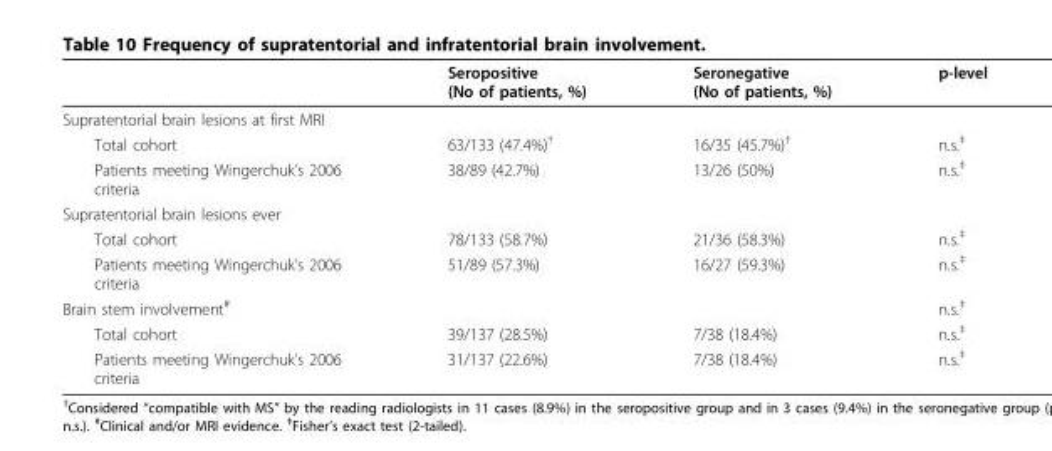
<table><thead><tr><td></td><td>Seropositive (No of patients, %)</td><td>Seronegative (No of patients, %)</td><td>p-level</td></tr></thead><tbody><tr><td colspan="4">Supratentorial brain lesions at first MRI</td></tr><tr><td>Total cohort</td><td>63/133 (47.4%)<sup>†</sup></td><td>16/35 (45.7%)<sup>†</sup></td><td>n.s.<sup>‡</sup></td></tr><tr><td>Patients meeting Wingerchuk’s 2006 criteria</td><td>38/89 (42.7%)</td><td>13/26 (50%)</td><td>n.s.<sup>‡</sup></td></tr><tr><td colspan="4">Supratentorial brain lesions ever</td></tr><tr><td>Total cohort</td><td>78/133 (58.7%)</td><td>21/36 (58.3%)</td><td>n.s.<sup>‡</sup></td></tr><tr><td>Patients meeting Wingerchuk’s 2006 criteria</td><td>51/89 (57.3%)</td><td>16/27 (59.3%)</td><td>n.s.<sup>‡</sup></td></tr><tr><td>Brain stem involvement<sup>#</sup></td><td></td><td></td><td>n.s.<sup>‡</sup></td></tr><tr><td>Total cohort</td><td>39/137 (28.5%)</td><td>7/38 (18.4%)</td><td>n.s.<sup>‡</sup></td></tr><tr><td>Patients meeting Wingerchuk’s 2006 criteria</td><td>31/137 (22.6%)</td><td>7/38 (18.4%)</td><td>n.s.<sup>‡</sup></td></tr></tbody></table>